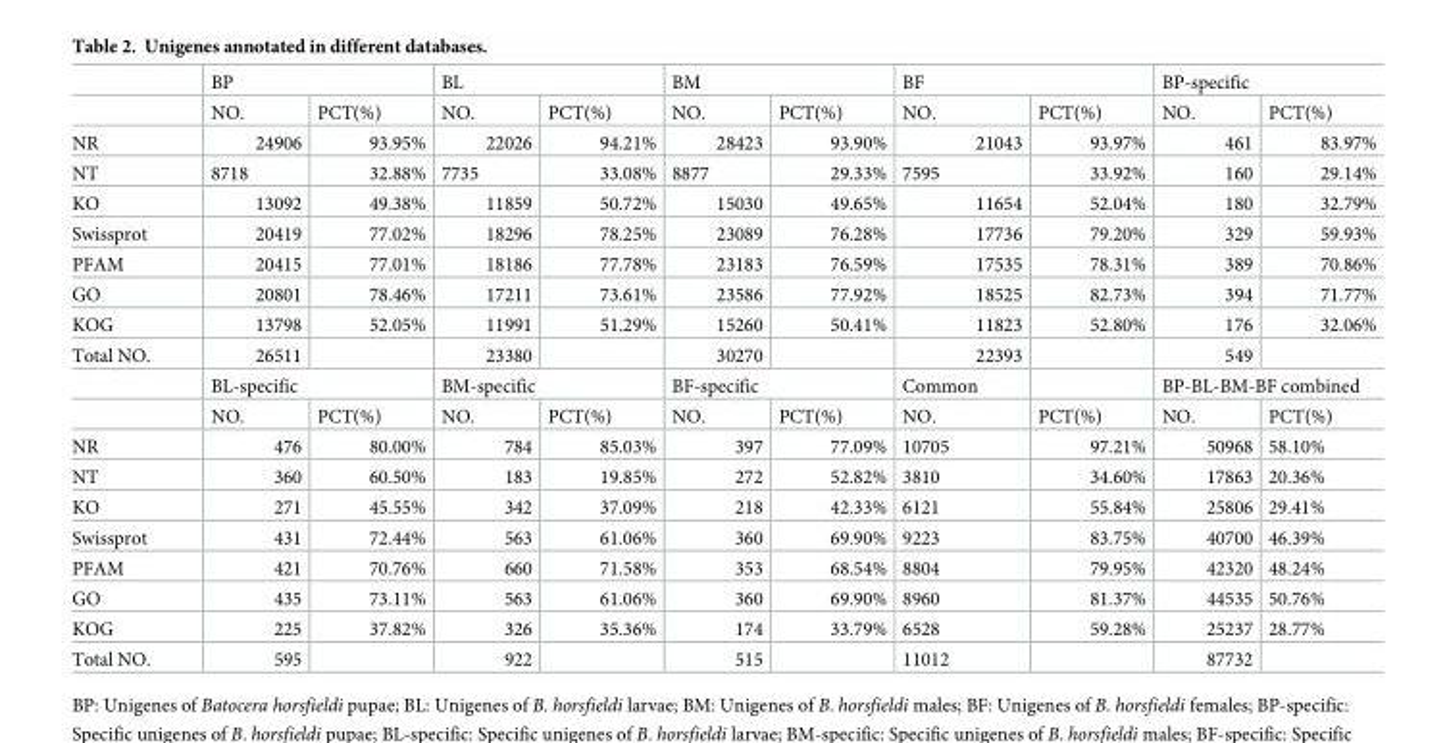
<table><thead><tr><td rowspan="2"></td><td colspan="2">BP</td><td colspan="2">BL</td><td colspan="2">BM</td><td colspan="2">BF</td><td colspan="2">BP-specific</td></tr><tr><td>NO.</td><td>PCT(%)</td><td>NO.</td><td>PCT(%)</td><td>NO.</td><td>PCT(%)</td><td>NO.</td><td>PCT(%)</td><td>NO.</td><td>PCT(%)</td></tr></thead><tbody><tr><td>NR</td><td>24906</td><td>93.95%</td><td>22026</td><td>94.21%</td><td>28423</td><td>93.90%</td><td>21043</td><td>93.97%</td><td>461</td><td>83.97%</td></tr><tr><td>NT</td><td>8718</td><td>32.88%</td><td>7735</td><td>33.08%</td><td>8877</td><td>29.33%</td><td>7595</td><td>33.92%</td><td>160</td><td>29.14%</td></tr><tr><td>KO</td><td>13092</td><td>49.38%</td><td>11859</td><td>50.72%</td><td>15030</td><td>49.65%</td><td>11654</td><td>52.04%</td><td>180</td><td>32.79%</td></tr><tr><td>Swissprot</td><td>20419</td><td>77.02%</td><td>18296</td><td>78.25%</td><td>23089</td><td>76.28%</td><td>17736</td><td>79.20%</td><td>329</td><td>59.93%</td></tr><tr><td>PFAM</td><td>20415</td><td>77.01%</td><td>18186</td><td>77.78%</td><td>23183</td><td>76.59%</td><td>17535</td><td>78.31%</td><td>389</td><td>70.86%</td></tr><tr><td>GO</td><td>20801</td><td>78.46%</td><td>17211</td><td>73.61%</td><td>23586</td><td>77.92%</td><td>18525</td><td>82.73%</td><td>394</td><td>71.77%</td></tr><tr><td>KOG</td><td>13798</td><td>52.05%</td><td>11991</td><td>51.29%</td><td>15260</td><td>50.41%</td><td>11823</td><td>52.80%</td><td>176</td><td>32.06%</td></tr><tr><td rowspan="3">Total NO.</td><td>26511</td><td></td><td>23380</td><td></td><td>30270</td><td></td><td>22393</td><td></td><td>549</td><td></td></tr><tr><td colspan="2">BL-specific</td><td colspan="2">BM-specific</td><td colspan="2">BF-specific</td><td>Common</td><td></td><td colspan="2">BP-BL-BM-BF combined</td></tr><tr><td>NO.</td><td>PCT(%)</td><td>NO.</td><td>PCT(%)</td><td>NO.</td><td>PCT(%)</td><td>NO.</td><td>PCT(%)</td><td>NO.</td><td>PCT(%)</td></tr><tr><td>NR</td><td>476</td><td>80.00%</td><td>784</td><td>85.03%</td><td>397</td><td>77.09%</td><td>10705</td><td>97.21%</td><td>50968</td><td>58.10%</td></tr><tr><td>NT</td><td>360</td><td>60.50%</td><td>183</td><td>19.85%</td><td>272</td><td>52.82%</td><td>3810</td><td>34.60%</td><td>17863</td><td>20.36%</td></tr><tr><td>KO</td><td>271</td><td>45.55%</td><td>342</td><td>37.09%</td><td>218</td><td>42.33%</td><td>6121</td><td>55.84%</td><td>25806</td><td>29.41%</td></tr><tr><td>Swissprot</td><td>431</td><td>72.44%</td><td>563</td><td>61.06%</td><td>360</td><td>69.90%</td><td>9223</td><td>83.75%</td><td>40700</td><td>46.39%</td></tr><tr><td>PFAM</td><td>421</td><td>70.76%</td><td>660</td><td>71.58%</td><td>353</td><td>68.54%</td><td>8804</td><td>79.95%</td><td>42320</td><td>48.24%</td></tr><tr><td>GO</td><td>435</td><td>73.11%</td><td>563</td><td>61.06%</td><td>360</td><td>69.90%</td><td>8960</td><td>81.37%</td><td>44535</td><td>50.76%</td></tr><tr><td>KOG</td><td>225</td><td>37.82%</td><td>326</td><td>35.36%</td><td>174</td><td>33.79%</td><td>6528</td><td>59.28%</td><td>25237</td><td>28.77%</td></tr><tr><td>Total NO.</td><td>595</td><td></td><td>922</td><td></td><td>515</td><td></td><td>11012</td><td></td><td>87732</td><td></td></tr></tbody></table>